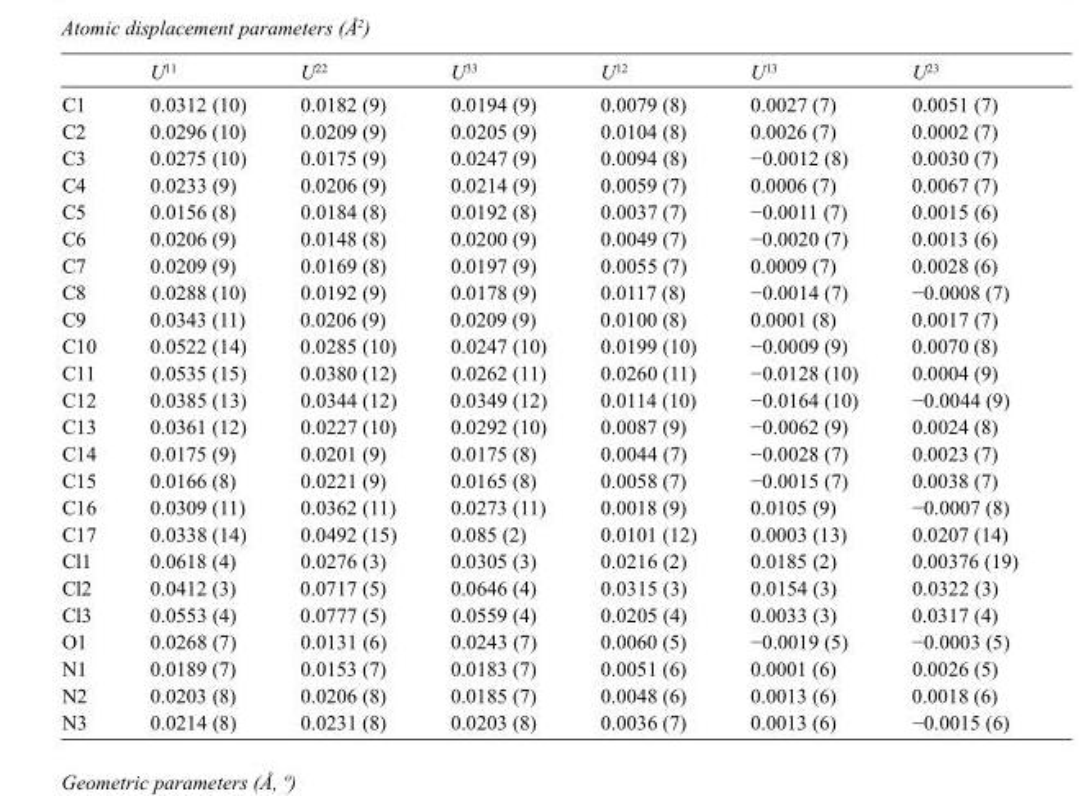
<table><thead><tr><td></td><td>U<sup>11</sup></td><td>U<sup>22</sup></td><td>U<sup>33</sup></td><td>U<sup>12</sup></td><td>U<sup>13</sup></td><td>U<sup>23</sup></td></tr></thead><tbody><tr><td>C1</td><td>0.0312 (10)</td><td>0.0182 (9)</td><td>0.0194 (9)</td><td>0.0079 (8)</td><td>0.0027 (7)</td><td>0.0051 (7)</td></tr><tr><td>C2</td><td>0.0296 (10)</td><td>0.0209 (9)</td><td>0.0205 (9)</td><td>0.0104 (8)</td><td>0.0026 (7)</td><td>0.0002 (7)</td></tr><tr><td>C3</td><td>0.0275 (10)</td><td>0.0175 (9)</td><td>0.0247 (9)</td><td>0.0094 (8)</td><td>−0.0012 (8)</td><td>0.0030 (7)</td></tr><tr><td>C4</td><td>0.0233 (9)</td><td>0.0206 (9)</td><td>0.0214 (9)</td><td>0.0059 (7)</td><td>0.0006 (7)</td><td>0.0067 (7)</td></tr><tr><td>C5</td><td>0.0156 (8)</td><td>0.0184 (8)</td><td>0.0192 (8)</td><td>0.0037 (7)</td><td>−0.0011 (7)</td><td>0.0015 (6)</td></tr><tr><td>C6</td><td>0.0206 (9)</td><td>0.0148 (8)</td><td>0.0200 (9)</td><td>0.0049 (7)</td><td>−0.0020 (7)</td><td>0.0013 (6)</td></tr><tr><td>C7</td><td>0.0209 (9)</td><td>0.0169 (8)</td><td>0.0197 (9)</td><td>0.0055 (7)</td><td>0.0009 (7)</td><td>0.0028 (6)</td></tr><tr><td>C8</td><td>0.0288 (10)</td><td>0.0192 (9)</td><td>0.0178 (9)</td><td>0.0117 (8)</td><td>−0.0014 (7)</td><td>−0.0008 (7)</td></tr><tr><td>C9</td><td>0.0343 (11)</td><td>0.0206 (9)</td><td>0.0209 (9)</td><td>0.0100 (8)</td><td>0.0001 (8)</td><td>0.0017 (7)</td></tr><tr><td>C10</td><td>0.0522 (14)</td><td>0.0285 (10)</td><td>0.0247 (10)</td><td>0.0199 (10)</td><td>−0.0009 (9)</td><td>0.0070 (8)</td></tr><tr><td>C11</td><td>0.0535 (15)</td><td>0.0380 (12)</td><td>0.0262 (11)</td><td>0.0260 (11)</td><td>−0.0128 (10)</td><td>0.0004 (9)</td></tr><tr><td>C12</td><td>0.0385 (13)</td><td>0.0344 (12)</td><td>0.0349 (12)</td><td>0.0114 (10)</td><td>−0.0164 (10)</td><td>−0.0044 (9)</td></tr><tr><td>C13</td><td>0.0361 (12)</td><td>0.0227 (10)</td><td>0.0292 (10)</td><td>0.0087 (9)</td><td>−0.0062 (9)</td><td>0.0024 (8)</td></tr><tr><td>C14</td><td>0.0175 (9)</td><td>0.0201 (9)</td><td>0.0175 (8)</td><td>0.0044 (7)</td><td>−0.0028 (7)</td><td>0.0023 (7)</td></tr><tr><td>C15</td><td>0.0166 (8)</td><td>0.0221 (9)</td><td>0.0165 (8)</td><td>0.0058 (7)</td><td>−0.0015 (7)</td><td>0.0038 (7)</td></tr><tr><td>C16</td><td>0.0309 (11)</td><td>0.0362 (11)</td><td>0.0273 (11)</td><td>0.0018 (9)</td><td>0.0105 (9)</td><td>−0.0007 (8)</td></tr><tr><td>C17</td><td>0.0338 (14)</td><td>0.0492 (15)</td><td>0.085 (2)</td><td>0.0101 (12)</td><td>0.0003 (13)</td><td>0.0207 (14)</td></tr><tr><td>Cl1</td><td>0.0618 (4)</td><td>0.0276 (3)</td><td>0.0305 (3)</td><td>0.0216 (2)</td><td>0.0185 (2)</td><td>0.00376 (19)</td></tr><tr><td>Cl2</td><td>0.0412 (3)</td><td>0.0717 (5)</td><td>0.0646 (4)</td><td>0.0315 (3)</td><td>0.0154 (3)</td><td>0.0322 (3)</td></tr><tr><td>Cl3</td><td>0.0553 (4)</td><td>0.0777 (5)</td><td>0.0559 (4)</td><td>0.0205 (4)</td><td>0.0033 (3)</td><td>0.0317 (4)</td></tr><tr><td>O1</td><td>0.0268 (7)</td><td>0.0131 (6)</td><td>0.0243 (7)</td><td>0.0060 (5)</td><td>−0.0019 (5)</td><td>−0.0003 (5)</td></tr><tr><td>N1</td><td>0.0189 (7)</td><td>0.0153 (7)</td><td>0.0183 (7)</td><td>0.0051 (6)</td><td>0.0001 (6)</td><td>0.0026 (5)</td></tr><tr><td>N2</td><td>0.0203 (8)</td><td>0.0206 (8)</td><td>0.0185 (7)</td><td>0.0048 (6)</td><td>0.0013 (6)</td><td>0.0018 (6)</td></tr><tr><td>N3</td><td>0.0214 (8)</td><td>0.0231 (8)</td><td>0.0203 (8)</td><td>0.0036 (7)</td><td>0.0013 (6)</td><td>−0.0015 (6)</td></tr></tbody></table>